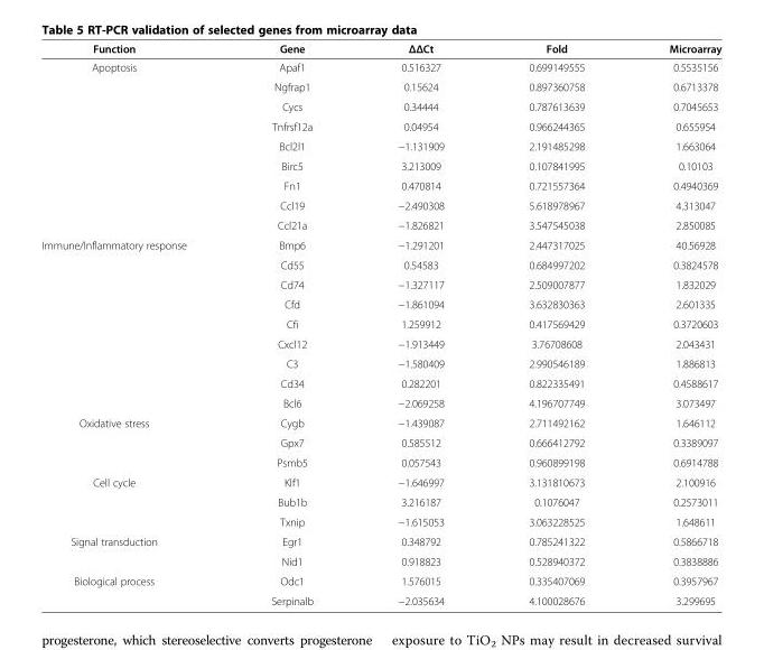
<table><thead><tr><td>Function</td><td>Gene</td><td>ΔΔCt</td><td>Fold</td><td>Microarray</td></tr></thead><tbody><tr><td rowspan="9">Apoptosis</td><td>Apaf1</td><td>0.516327</td><td>0.699149555</td><td>0.5535156</td></tr><tr><td>Ngfrap1</td><td>0.15624</td><td>0.897360758</td><td>0.6713378</td></tr><tr><td>Cycs</td><td>0.34444</td><td>0.787613639</td><td>0.7045653</td></tr><tr><td>Tnfrsf12a</td><td>0.04954</td><td>0.966244365</td><td>0.655954</td></tr><tr><td>Bcl2l1</td><td>−1.131909</td><td>2.191485298</td><td>1.663064</td></tr><tr><td>Birc5</td><td>3.213009</td><td>0.107841995</td><td>0.10103</td></tr><tr><td>Fn1</td><td>0.470814</td><td>0.721557364</td><td>0.4940369</td></tr><tr><td>Ccl19</td><td>−2.490308</td><td>5.618978967</td><td>4.313047</td></tr><tr><td>Ccl21a</td><td>−1.826821</td><td>3.547545038</td><td>2.850085</td></tr><tr><td rowspan="9">Immune/Inflammatory response</td><td>Bmp6</td><td>−1.291201</td><td>2.447317025</td><td>40.56928</td></tr><tr><td>Cd55</td><td>0.54583</td><td>0.684997202</td><td>0.3824578</td></tr><tr><td>Cd74</td><td>−1.327117</td><td>2.509007877</td><td>1.832029</td></tr><tr><td>Cfd</td><td>−1.861094</td><td>3.632830363</td><td>2.601335</td></tr><tr><td>Cfi</td><td>1.259912</td><td>0.417569429</td><td>0.3720603</td></tr><tr><td>Cxcl12</td><td>−1.913449</td><td>3.76708608</td><td>2.043431</td></tr><tr><td>C3</td><td>−1.580409</td><td>2.990546189</td><td>1.886813</td></tr><tr><td>Cd34</td><td>0.282201</td><td>0.822335491</td><td>0.4588617</td></tr><tr><td>Bcl6</td><td>−2.069258</td><td>4.196707749</td><td>3.073497</td></tr><tr><td rowspan="3">Oxidative stress</td><td>Cygb</td><td>−1.439087</td><td>2.711492162</td><td>1.646112</td></tr><tr><td>Gpx7</td><td>0.585512</td><td>0.666412792</td><td>0.3389097</td></tr><tr><td>Psmb5</td><td>0.057543</td><td>0.960899198</td><td>0.6914788</td></tr><tr><td rowspan="3">Cell cycle</td><td>Klf1</td><td>−1.646997</td><td>3.131810673</td><td>2.100916</td></tr><tr><td>Bub1b</td><td>3.216187</td><td>0.1076047</td><td>0.2573011</td></tr><tr><td>Txnip</td><td>−1.615053</td><td>3.063228525</td><td>1.648611</td></tr><tr><td rowspan="2">Signal transduction</td><td>Egr1</td><td>0.348792</td><td>0.785241322</td><td>0.5866718</td></tr><tr><td>Nid1</td><td>0.918823</td><td>0.528940372</td><td>0.3838886</td></tr><tr><td rowspan="2">Biological process</td><td>Odc1</td><td>1.576015</td><td>0.335407069</td><td>0.3957967</td></tr><tr><td>Serpinalb</td><td>−2.035634</td><td>4.100028676</td><td>3.299695</td></tr></tbody></table>